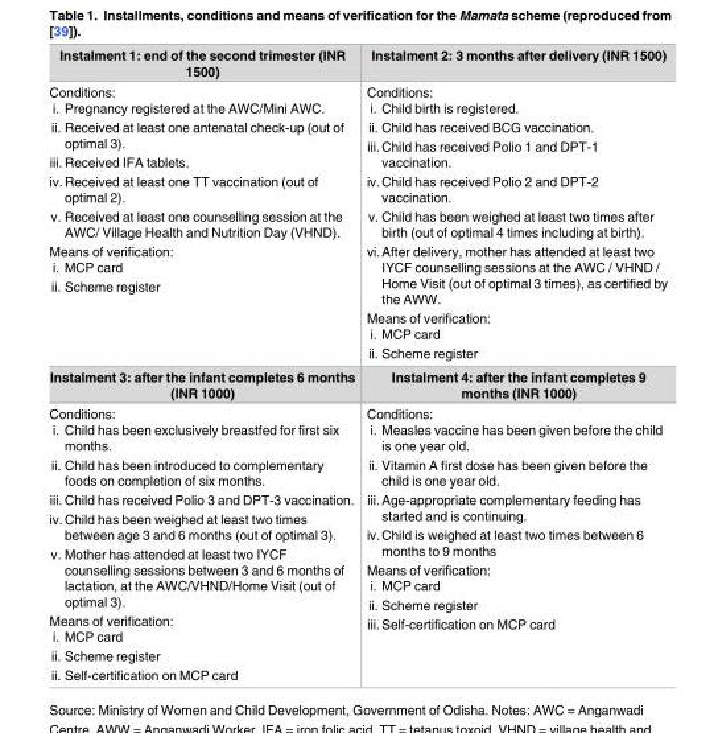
<table><tbody><tr><td>Instalment 1: end of the second trimester (INR 1500)</td><td>Instalment 2: 3 months after delivery (INR 1500)</td></tr><tr><td>Conditions: i. Pregnancy registered at the AWC/Mini AWC. ii. Received at least one antenatal check-up (out of optimal 3). iii. Received IFA tablets. iv.Received at least one TT vaccination (out of optimal 2). v. Received at least one counselling session at the AWC/ Village Health and Nutrition Day (VHND). Means of verification: i. MCP card ii. Scheme register</td><td>Conditions: i. Child birth is registered. ii. Child has received BCG vaccination. iii. Child has received Polio 1 and DPT-1 vaccination. iv.Child has received Polio 2 and DPT-2 vaccination. v. Child has been weighed at least two times after birth (out of optimal 4 times including at birth). vi.After delivery, mother has attended at least two IYCF counselling sessions at the AWC / VHND / Home Visit (out of optimal 3 times), as certified by the AWW. Means of verification: i. MCP card ii. Scheme register</td></tr><tr><td>Instalment 3: after the infant completes 6 months (INR 1000)</td><td>Instalment 4: after the infant completes 9 months (INR 1000)</td></tr><tr><td>Conditions: i. Child has been exclusively breastfed for first six months. ii. Child has been introduced to complementary foods on completion of six months. iii. Child has received Polio 3 and DPT-3 vaccination. iv.Child has been weighed at least two times between age 3 and 6 months (out of optimal 3). v. Mother has attended at least two IYCF counselling sessions between 3 and 6 months of lactation, at the AWC/VHND/Home Visit (out of optimal 3). Means of verification: i. MCP card ii. Scheme register ii. Self-certification on MCP card</td><td>Conditions: i. Measles vaccine has been given before the child is one year old. ii. Vitamin A first dose has been given before the child is one year old. iii. Age-appropriate complementary feeding has started and is continuing. iv.Child is weighed at least two times between 6 months to 9 months Means of verification: i. MCP card ii. Scheme register iii. Self-certification on MCP card</td></tr></tbody></table>